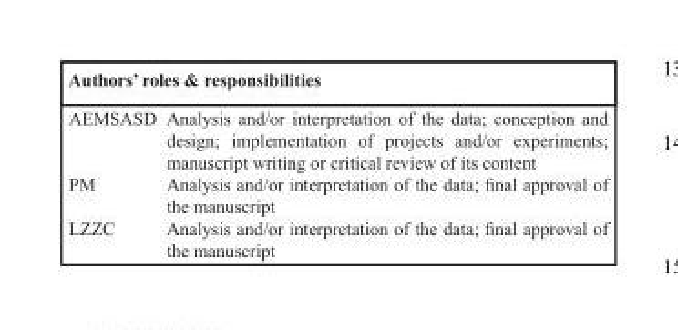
<table><thead><tr><td colspan="2">Authors’ roles &amp; responsibilities</td></tr><tr><td>AEMSASD</td><td>Analysis and/or interpretation of the data; conception and design; implementation of projects and/or experiments; manuscript writing or critical review of its content</td></tr></thead><tbody><tr><td>PM</td><td>Analysis and/or interpretation of the data; final approval of the manuscript</td></tr><tr><td>LZZC</td><td>Analysis and/or interpretation of the data; final approval of the manuscript</td></tr></tbody></table>